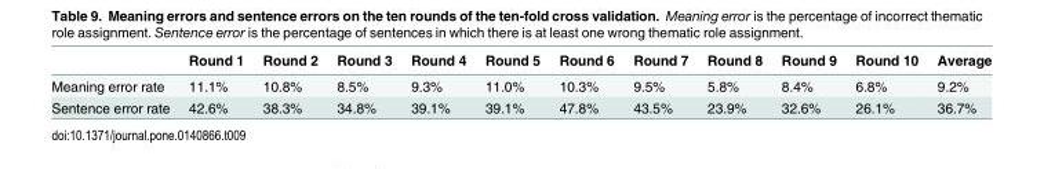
<table><thead><tr><td></td><td>Round 1</td><td>Round 2</td><td>Round 3</td><td>Round 4</td><td>Round 5</td><td>Round 6</td><td>Round 7</td><td>Round 8</td><td>Round 9</td><td>Round 10</td><td>Average</td></tr></thead><tbody><tr><td>Meaning error rate</td><td>11.1%</td><td>10.8%</td><td>8.5%</td><td>9.3%</td><td>11.0%</td><td>10.3%</td><td>9.5%</td><td>5.8%</td><td>8.4%</td><td>6.8%</td><td>9.2%</td></tr><tr><td>Sentence error rate</td><td>42.6%</td><td>38.3%</td><td>34.8%</td><td>39.1%</td><td>39.1%</td><td>47.8%</td><td>43.5%</td><td>23.9%</td><td>32.6%</td><td>26.1%</td><td>36.7%</td></tr></tbody></table>